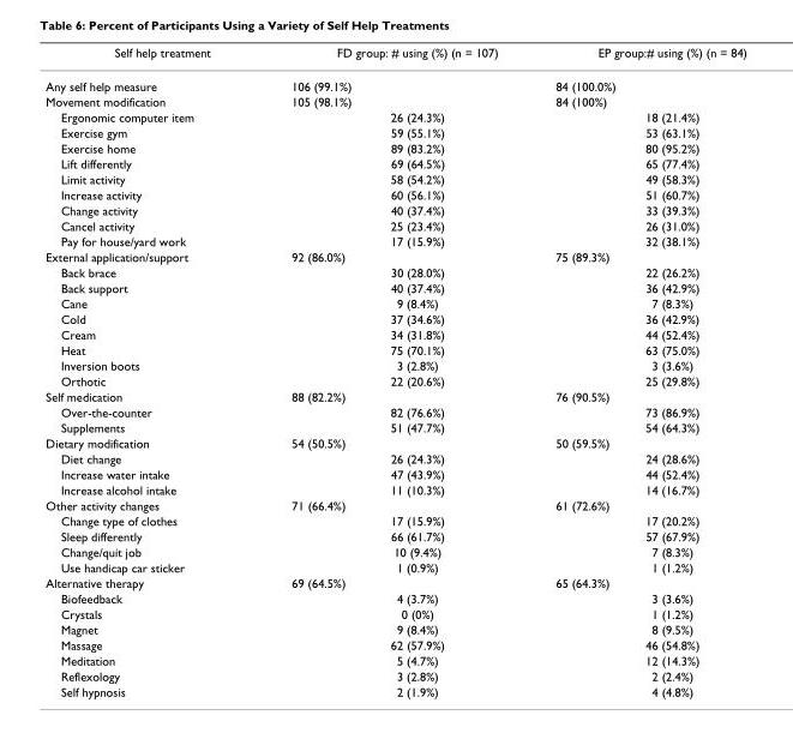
<table><thead><tr><td>Self help treatment</td><td>FD group: # using (%) (n = 107)</td><td>EP group:# using (%) (n = 84)</td></tr></thead><tbody><tr><td>Any self help measure</td><td>106 (99.1%)</td><td>84 (100.0%)</td></tr><tr><td>Movement modification</td><td>105 (98.1%)</td><td>84 (100%)</td></tr><tr><td>Ergonomic computer item</td><td>26 (24.3%)</td><td>18 (21.4%)</td></tr><tr><td>Exercise gym</td><td>59 (55.1%)</td><td>53 (63.1%)</td></tr><tr><td>Exercise home</td><td>89 (83.2%)</td><td>80 (95.2%)</td></tr><tr><td>Lift differently</td><td>69 (64.5%)</td><td>65 (77.4%)</td></tr><tr><td>Limit activity</td><td>58 (54.2%)</td><td>49 (58.3%)</td></tr><tr><td>Increase activity</td><td>60 (56.1%)</td><td>51 (60.7%)</td></tr><tr><td>Change activity</td><td>40 (37.4%)</td><td>33 (39.3%)</td></tr><tr><td>Cancel activity</td><td>25 (23.4%)</td><td>26 (31.0%)</td></tr><tr><td>Pay for house/yard work</td><td>17 (15.9%)</td><td>32 (38.1%)</td></tr><tr><td>External application/support</td><td>92 (86.0%)</td><td>75 (89.3%)</td></tr><tr><td>Back brace</td><td>30 (28.0%)</td><td>22 (26.2%)</td></tr><tr><td>Back support</td><td>40 (37.4%)</td><td>36 (42.9%)</td></tr><tr><td>Cane</td><td>9 (8.4%)</td><td>7 (8.3%)</td></tr><tr><td>Cold</td><td>37 (34.6%)</td><td>36 (42.9%)</td></tr><tr><td>Cream</td><td>34 (31.8%)</td><td>44 (52.4%)</td></tr><tr><td>Heat</td><td>75 (70.1%)</td><td>63 (75.0%)</td></tr><tr><td>Inversion boots</td><td>3 (2.8%)</td><td>3 (3.6%)</td></tr><tr><td>Orthotic</td><td>22 (20.6%)</td><td>25 (29.8%)</td></tr><tr><td>Self medication</td><td>88 (82.2%)</td><td>76 (90.5%)</td></tr><tr><td>Over-the-counter</td><td>82 (76.6%)</td><td>73 (86.9%)</td></tr><tr><td>Supplements</td><td>51 (47.7%)</td><td>54 (64.3%)</td></tr><tr><td>Dietary modification</td><td>54 (50.5%)</td><td>50 (59.5%)</td></tr><tr><td>Diet change</td><td>26 (24.3%)</td><td>24 (28.6%)</td></tr><tr><td>Increase water intake</td><td>47 (43.9%)</td><td>44 (52.4%)</td></tr><tr><td>Increase alcohol intake</td><td>11 (10.3%)</td><td>14 (16.7%)</td></tr><tr><td>Other activity changes</td><td>71 (66.4%)</td><td>61 (72.6%)</td></tr><tr><td>Change type of clothes</td><td>17 (15.9%)</td><td>17 (20.2%)</td></tr><tr><td>Sleep differently</td><td>66 (61.7%)</td><td>57 (67.9%)</td></tr><tr><td>Change/quit job</td><td>10 (9.4%)</td><td>7 (8.3%)</td></tr><tr><td>Use handicap car sticker</td><td>1 (0.9%)</td><td>1 (1.2%)</td></tr><tr><td>Alternative therapy</td><td>69 (64.5%)</td><td>65 (64.3%)</td></tr><tr><td>Biofeedback</td><td>4 (3.7%)</td><td>3 (3.6%)</td></tr><tr><td>Crystals</td><td>0 (0%)</td><td>1 (1.2%)</td></tr><tr><td>Magnet</td><td>9 (8.4%)</td><td>8 (9.5%)</td></tr><tr><td>Massage</td><td>62 (57.9%)</td><td>46 (54.8%)</td></tr><tr><td>Meditation</td><td>5 (4.7%)</td><td>12 (14.3%)</td></tr><tr><td>Reflexology</td><td>3 (2.8%)</td><td>2 (2.4%)</td></tr><tr><td>Self hypnosis</td><td>2 (1.9%)</td><td>4 (4.8%)</td></tr></tbody></table>